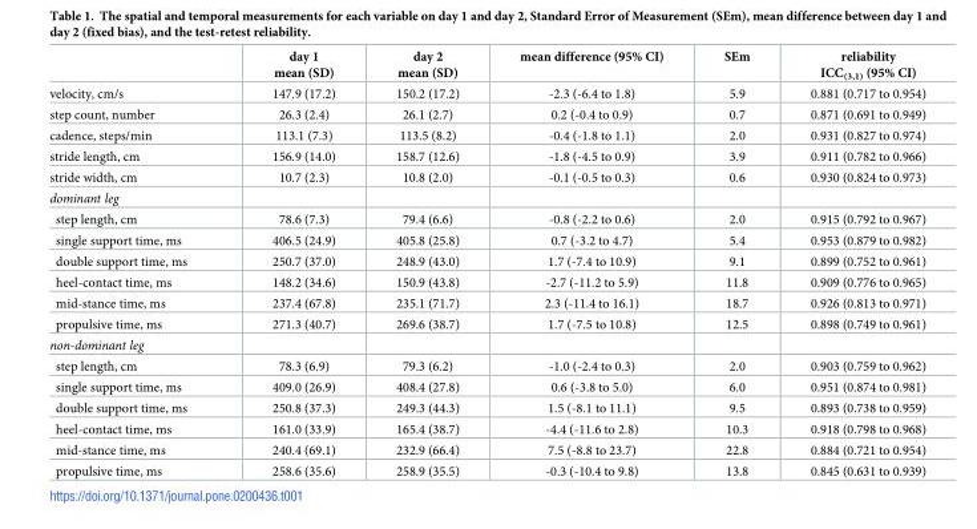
<table><thead><tr><td></td><td>day 1 mean (SD)</td><td>day 2 mean (SD)</td><td>mean difference (95% CI)</td><td>SEm</td><td>reliability ICC<sub>(3,1)</sub> (95% CI)</td></tr></thead><tbody><tr><td>velocity, cm/s</td><td>147.9 (17.2)</td><td>150.2 (17.2)</td><td>-2.3 (-6.4 to 1.8)</td><td>5.9</td><td>0.881 (0.717 to 0.954)</td></tr><tr><td>step count, number</td><td>26.3 (2.4)</td><td>26.1 (2.7)</td><td>0.2 (-0.4 to 0.9)</td><td>0.7</td><td>0.871 (0.691 to 0.949)</td></tr><tr><td>cadence, steps/min</td><td>113.1 (7.3)</td><td>113.5 (8.2)</td><td>-0.4 (-1.8 to 1.1)</td><td>2.0</td><td>0.931 (0.827 to 0.974)</td></tr><tr><td>stride length, cm</td><td>156.9 (14.0)</td><td>158.7 (12.6)</td><td>-1.8 (-4.5 to 0.9)</td><td>3.9</td><td>0.911 (0.782 to 0.966)</td></tr><tr><td>stride width, cm</td><td>10.7 (2.3)</td><td>10.8 (2.0)</td><td>-0.1 (-0.5 to 0.3)</td><td>0.6</td><td>0.930 (0.824 to 0.973)</td></tr><tr><td colspan="6">dominant leg</td></tr><tr><td>step length, cm</td><td>78.6 (7.3)</td><td>79.4 (6.6)</td><td>-0.8 (-2.2 to 0.6)</td><td>2.0</td><td>0.915 (0.792 to 0.967)</td></tr><tr><td>single support time, ms</td><td>406.5 (24.9)</td><td>405.8 (25.8)</td><td>0.7 (-3.2 to 4.7)</td><td>5.4</td><td>0.953 (0.879 to 0.982)</td></tr><tr><td>double support time, ms</td><td>250.7 (37.0)</td><td>248.9 (43.0)</td><td>1.7 (-7.4 to 10.9)</td><td>9.1</td><td>0.899 (0.752 to 0.961)</td></tr><tr><td>heel-contact time, ms</td><td>148.2 (34.6)</td><td>150.9 (43.8)</td><td>-2.7 (-11.2 to 5.9)</td><td>11.8</td><td>0.909 (0.776 to 0.965)</td></tr><tr><td>mid-stance time, ms</td><td>237.4 (67.8)</td><td>235.1 (71.7)</td><td>2.3 (-11.4 to 16.1)</td><td>18.7</td><td>0.926 (0.813 to 0.971)</td></tr><tr><td>propulsive time, ms</td><td>271.3 (40.7)</td><td>269.6 (38.7)</td><td>1.7 (-7.5 to 10.8)</td><td>12.5</td><td>0.898 (0.749 to 0.961)</td></tr><tr><td colspan="6">non-dominant leg</td></tr><tr><td>step length, cm</td><td>78.3 (6.9)</td><td>79.3 (6.2)</td><td>-1.0 (-2.4 to 0.3)</td><td>2.0</td><td>0.903 (0.759 to 0.962)</td></tr><tr><td>single support time, ms</td><td>409.0 (26.9)</td><td>408.4 (27.8)</td><td>0.6 (-3.8 to 5.0)</td><td>6.0</td><td>0.951 (0.874 to 0.981)</td></tr><tr><td>double support time, ms</td><td>250.8 (37.3)</td><td>249.3 (44.3)</td><td>1.5 (-8.1 to 11.1)</td><td>9.5</td><td>0.893 (0.738 to 0.959)</td></tr><tr><td>heel-contact time, ms</td><td>161.0 (33.9)</td><td>165.4 (38.7)</td><td>-4.4 (-11.6 to 2.8)</td><td>10.3</td><td>0.918 (0.798 to 0.968)</td></tr><tr><td>mid-stance time, ms</td><td>240.4 (69.1)</td><td>232.9 (66.4)</td><td>7.5 (-8.8 to 23.7)</td><td>22.8</td><td>0.884 (0.721 to 0.954)</td></tr><tr><td>propulsive time, ms</td><td>258.6 (35.6)</td><td>258.9 (35.5)</td><td>-0.3 (-10.4 to 9.8)</td><td>13.8</td><td>0.845 (0.631 to 0.939)</td></tr></tbody></table>